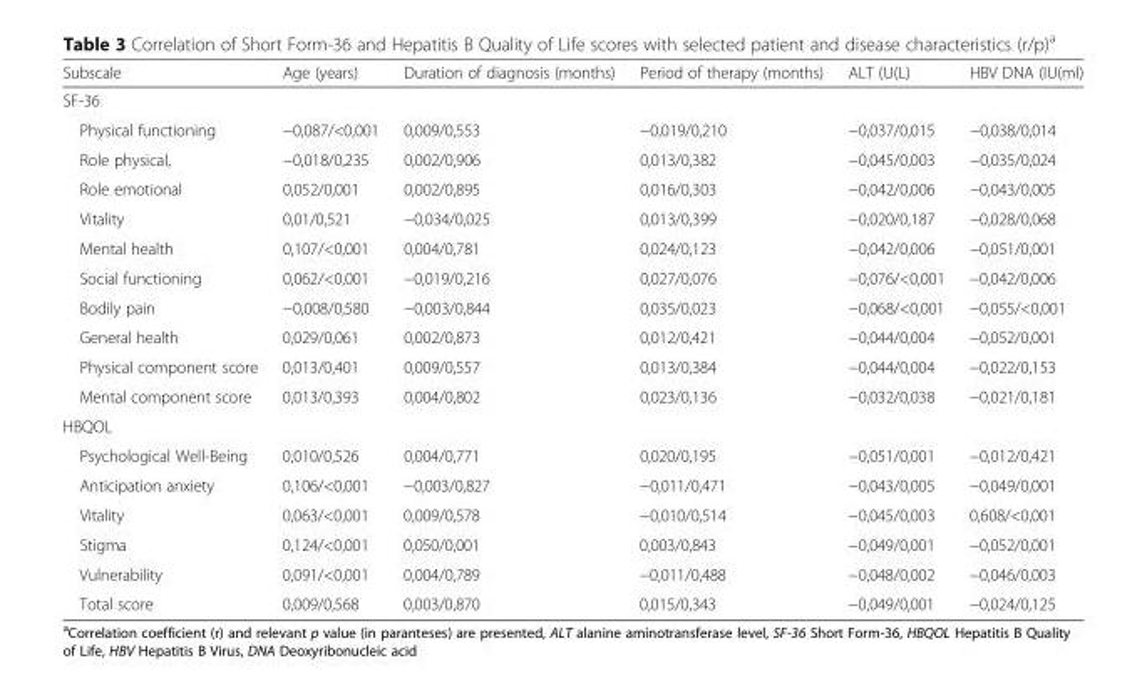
<table><thead><tr><td>Subscale</td><td>Age (years)</td><td>Duration of diagnosis (months)</td><td>Period of therapy (months)</td><td>ALT (U(L)</td><td>HBV DNA (IU(ml)</td></tr></thead><tbody><tr><td colspan="6">SF-36</td></tr><tr><td>Physical functioning</td><td>−0,087/&lt;0,001</td><td>0,009/0,553</td><td>−0,019/0,210</td><td>−0,037/0,015</td><td>−0,038/0,014</td></tr><tr><td>Role physical,</td><td>−0,018/0,235</td><td>0,002/0,906</td><td>0,013/0,382</td><td>−0,045/0,003</td><td>−0,035/0,024</td></tr><tr><td>Role emotional</td><td>0,052/0,001</td><td>0,002/0,895</td><td>0,016/0,303</td><td>−0,042/0,006</td><td>−0,043/0,005</td></tr><tr><td>Vitality</td><td>0,01/0,521</td><td>−0,034/0,025</td><td>0,013/0,399</td><td>−0,020/0,187</td><td>−0,028/0,068</td></tr><tr><td>Mental health</td><td>0,107/&lt;0,001</td><td>0,004/0,781</td><td>0,024/0,123</td><td>−0,042/0,006</td><td>−0,051/0,001</td></tr><tr><td>Social functioning</td><td>0,062/&lt;0,001</td><td>−0,019/0,216</td><td>0,027/0,076</td><td>−0,076/&lt;0,001</td><td>−0,042/0,006</td></tr><tr><td>Bodily pain</td><td>−0,008/0,580</td><td>−0,003/0,844</td><td>0,035/0,023</td><td>−0,068/&lt;0,001</td><td>−0,055/&lt;0,001</td></tr><tr><td>General health</td><td>0,029/0,061</td><td>0,002/0,873</td><td>0,012/0,421</td><td>−0,044/0,004</td><td>−0,052/0,001</td></tr><tr><td>Physical component score</td><td>0,013/0,401</td><td>0,009/0,557</td><td>0,013/0,384</td><td>−0,044/0,004</td><td>−0,022/0,153</td></tr><tr><td>Mental component score</td><td>0,013/0,393</td><td>0,004/0,802</td><td>0,023/0,136</td><td>−0,032/0,038</td><td>−0,021/0,181</td></tr><tr><td colspan="6">HBQOL</td></tr><tr><td>Psychological Well-Being</td><td>0,010/0,526</td><td>0,004/0,771</td><td>0,020/0,195</td><td>−0,051/0,001</td><td>−0,012/0,421</td></tr><tr><td>Anticipation anxiety</td><td>0,106/&lt;0,001</td><td>−0,003/0,827</td><td>−0,011/0,471</td><td>−0,043/0,005</td><td>−0,049/0,001</td></tr><tr><td>Vitality</td><td>0,063/&lt;0,001</td><td>0,009/0,578</td><td>−0,010/0,514</td><td>−0,045/0,003</td><td>0,608/&lt;0,001</td></tr><tr><td>Stigma</td><td>0,124/&lt;0,001</td><td>0,050/0,001</td><td>0,003/0,843</td><td>−0,049/0,001</td><td>−0,052/0,001</td></tr><tr><td>Vulnerability</td><td>0,091/&lt;0,001</td><td>0,004/0,789</td><td>−0,011/0,488</td><td>−0,048/0,002</td><td>−0,046/0,003</td></tr><tr><td>Total score</td><td>0,009/0,568</td><td>0,003/0,870</td><td>0,015/0,343</td><td>−0,049/0,001</td><td>−0,024/0,125</td></tr></tbody></table>